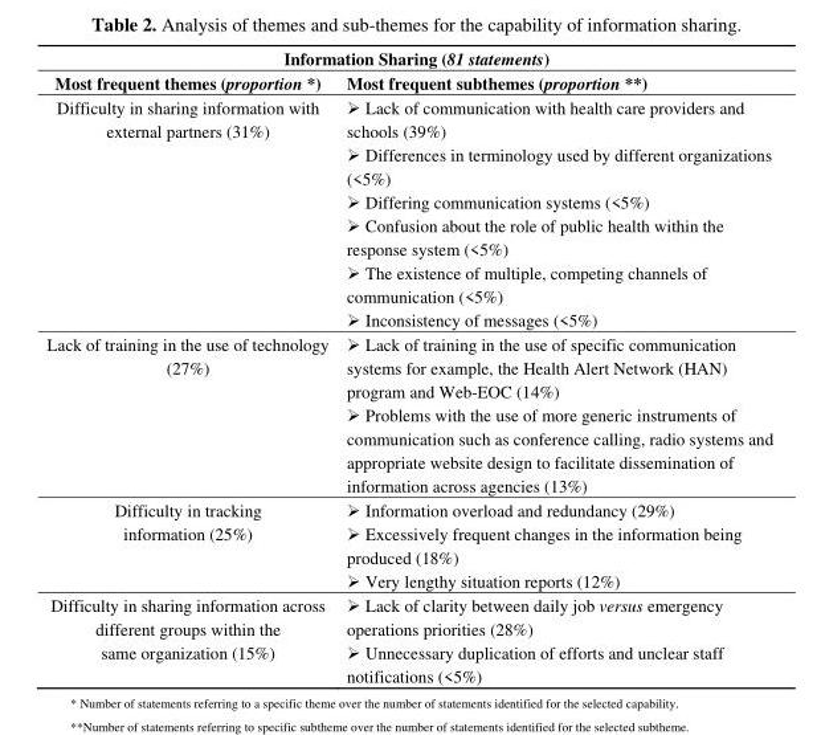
<table><thead><tr><td colspan="2">Information Sharing (81 statements)</td></tr><tr><td>Most frequent themes (proportion *)</td><td>Most frequent subthemes (proportion **)</td></tr></thead><tbody><tr><td rowspan="6">Difficulty in sharing information with external partners (31%)</td><td>➢ Lack of communication with health care providers and schools (39%)</td></tr><tr><td>➢ Differences in terminology used by different organizations (&lt;5%)</td></tr><tr><td>➢ Differing communication systems (&lt;5%)</td></tr><tr><td>➢ Confusion about the role of public health within the response system (&lt;5%)</td></tr><tr><td>➢ The existence of multiple, competing channels of communication (&lt;5%)</td></tr><tr><td>➢ Inconsistency of messages (&lt;5%)</td></tr><tr><td rowspan="2">Lack of training in the use of technology (27%)</td><td>➢ Lack of training in the use of specific communication systems for example, the Health Alert Network (HAN) program and Web-EOC (14%)</td></tr><tr><td>➢ Problems with the use of more generic instruments of communication such as conference calling, radio systems and appropriate website design to facilitate dissemination of information across agencies (13%)</td></tr><tr><td rowspan="3">Difficulty in tracking information (25%)</td><td>➢ Information overload and redundancy (29%)</td></tr><tr><td>➢ Excessively frequent changes in the information being produced (18%)</td></tr><tr><td>➢ Very lengthy situation reports (12%)</td></tr><tr><td rowspan="2">Difficulty in sharing information across different groups within the same organization (15%)</td><td>➢ Lack of clarity between daily job versus emergency operations priorities (28%)</td></tr><tr><td>➢ Unnecessary duplication of efforts and unclear staff notifications (&lt;5%)</td></tr></tbody></table>